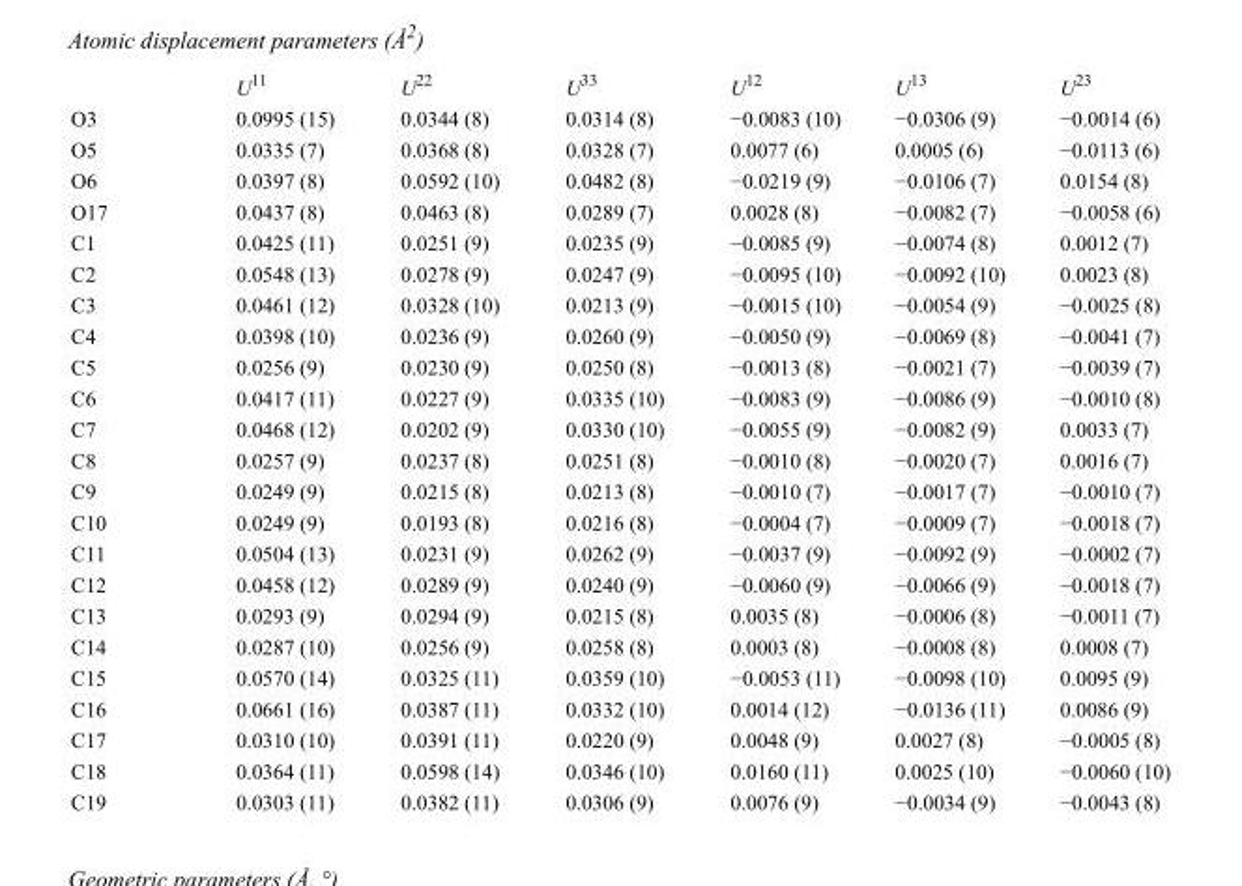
<table><thead><tr><td></td><td>U<sup>11</sup></td><td>U<sup>22</sup></td><td>U<sup>33</sup></td><td>U<sup>12</sup></td><td>U<sup>13</sup></td><td>U<sup>23</sup></td></tr></thead><tbody><tr><td>O3</td><td>0.0995 (15)</td><td>0.0344 (8)</td><td>0.0314 (8)</td><td>−0.0083 (10)</td><td>−0.0306 (9)</td><td>−0.0014 (6)</td></tr><tr><td>O5</td><td>0.0335 (7)</td><td>0.0368 (8)</td><td>0.0328 (7)</td><td>0.0077 (6)</td><td>0.0005 (6)</td><td>−0.0113 (6)</td></tr><tr><td>O6</td><td>0.0397 (8)</td><td>0.0592 (10)</td><td>0.0482 (8)</td><td>−0.0219 (9)</td><td>−0.0106 (7)</td><td>0.0154 (8)</td></tr><tr><td>O17</td><td>0.0437 (8)</td><td>0.0463 (8)</td><td>0.0289 (7)</td><td>0.0028 (8)</td><td>−0.0082 (7)</td><td>−0.0058 (6)</td></tr><tr><td>C1</td><td>0.0425 (11)</td><td>0.0251 (9)</td><td>0.0235 (9)</td><td>−0.0085 (9)</td><td>−0.0074 (8)</td><td>0.0012 (7)</td></tr><tr><td>C2</td><td>0.0548 (13)</td><td>0.0278 (9)</td><td>0.0247 (9)</td><td>−0.0095 (10)</td><td>−0.0092 (10)</td><td>0.0023 (8)</td></tr><tr><td>C3</td><td>0.0461 (12)</td><td>0.0328 (10)</td><td>0.0213 (9)</td><td>−0.0015 (10)</td><td>−0.0054 (9)</td><td>−0.0025 (8)</td></tr><tr><td>C4</td><td>0.0398 (10)</td><td>0.0236 (9)</td><td>0.0260 (9)</td><td>−0.0050 (9)</td><td>−0.0069 (8)</td><td>−0.0041 (7)</td></tr><tr><td>C5</td><td>0.0256 (9)</td><td>0.0230 (9)</td><td>0.0250 (8)</td><td>−0.0013 (8)</td><td>−0.0021 (7)</td><td>−0.0039 (7)</td></tr><tr><td>C6</td><td>0.0417 (11)</td><td>0.0227 (9)</td><td>0.0335 (10)</td><td>−0.0083 (9)</td><td>−0.0086 (9)</td><td>−0.0010 (8)</td></tr><tr><td>C7</td><td>0.0468 (12)</td><td>0.0202 (9)</td><td>0.0330 (10)</td><td>−0.0055 (9)</td><td>−0.0082 (9)</td><td>0.0033 (7)</td></tr><tr><td>C8</td><td>0.0257 (9)</td><td>0.0237 (8)</td><td>0.0251 (8)</td><td>−0.0010 (8)</td><td>−0.0020 (7)</td><td>0.0016 (7)</td></tr><tr><td>C9</td><td>0.0249 (9)</td><td>0.0215 (8)</td><td>0.0213 (8)</td><td>−0.0010 (7)</td><td>−0.0017 (7)</td><td>−0.0010 (7)</td></tr><tr><td>C10</td><td>0.0249 (9)</td><td>0.0193 (8)</td><td>0.0216 (8)</td><td>−0.0004 (7)</td><td>−0.0009 (7)</td><td>−0.0018 (7)</td></tr><tr><td>C11</td><td>0.0504 (13)</td><td>0.0231 (9)</td><td>0.0262 (9)</td><td>−0.0037 (9)</td><td>−0.0092 (9)</td><td>−0.0002 (7)</td></tr><tr><td>C12</td><td>0.0458 (12)</td><td>0.0289 (9)</td><td>0.0240 (9)</td><td>−0.0060 (9)</td><td>−0.0066 (9)</td><td>−0.0018 (7)</td></tr><tr><td>C13</td><td>0.0293 (9)</td><td>0.0294 (9)</td><td>0.0215 (8)</td><td>0.0035 (8)</td><td>−0.0006 (8)</td><td>−0.0011 (7)</td></tr><tr><td>C14</td><td>0.0287 (10)</td><td>0.0256 (9)</td><td>0.0258 (8)</td><td>0.0003 (8)</td><td>−0.0008 (8)</td><td>0.0008 (7)</td></tr><tr><td>C15</td><td>0.0570 (14)</td><td>0.0325 (11)</td><td>0.0359 (10)</td><td>−0.0053 (11)</td><td>−0.0098 (10)</td><td>0.0095 (9)</td></tr><tr><td>C16</td><td>0.0661 (16)</td><td>0.0387 (11)</td><td>0.0332 (10)</td><td>0.0014 (12)</td><td>−0.0136 (11)</td><td>0.0086 (9)</td></tr><tr><td>C17</td><td>0.0310 (10)</td><td>0.0391 (11)</td><td>0.0220 (9)</td><td>0.0048 (9)</td><td>0.0027 (8)</td><td>−0.0005 (8)</td></tr><tr><td>C18</td><td>0.0364 (11)</td><td>0.0598 (14)</td><td>0.0346 (10)</td><td>0.0160 (11)</td><td>0.0025 (10)</td><td>−0.0060 (10)</td></tr><tr><td>C19</td><td>0.0303 (11)</td><td>0.0382 (11)</td><td>0.0306 (9)</td><td>0.0076 (9)</td><td>−0.0034 (9)</td><td>−0.0043 (8)</td></tr></tbody></table>